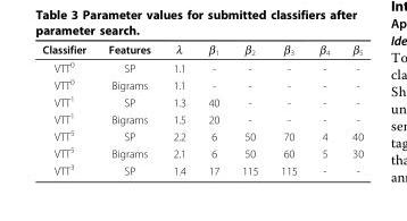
<table><thead><tr><td>Classifier</td><td>Features</td><td>λ</td><td>β<sub>1</sub></td><td>β<sub>2</sub></td><td>β<sub>3</sub></td><td>β<sub>4</sub></td><td>β<sub>5</sub></td></tr></thead><tbody><tr><td>VTT<sup>0</sup></td><td>SP</td><td>1.1</td><td>-</td><td>-</td><td>-</td><td>-</td><td>-</td></tr><tr><td>VTT<sup>0</sup></td><td>Bigrams</td><td>1.1</td><td>-</td><td>-</td><td>-</td><td>-</td><td>-</td></tr><tr><td>VTT<sup>1</sup></td><td>SP</td><td>1.3</td><td>40</td><td>-</td><td>-</td><td>-</td><td>-</td></tr><tr><td>VTT<sup>1</sup></td><td>Bigrams</td><td>1.5</td><td>20</td><td>-</td><td>-</td><td>-</td><td>-</td></tr><tr><td>VTT<sup>5</sup></td><td>SP</td><td>2.2</td><td>6</td><td>50</td><td>70</td><td>4</td><td>40</td></tr><tr><td>VTT<sup>5</sup></td><td>Bigrams</td><td>2.1</td><td>6</td><td>50</td><td>60</td><td>5</td><td>30</td></tr><tr><td>VTT<sup>3</sup></td><td>SP</td><td>1.4</td><td>17</td><td>115</td><td>115</td><td>-</td><td>-</td></tr></tbody></table>